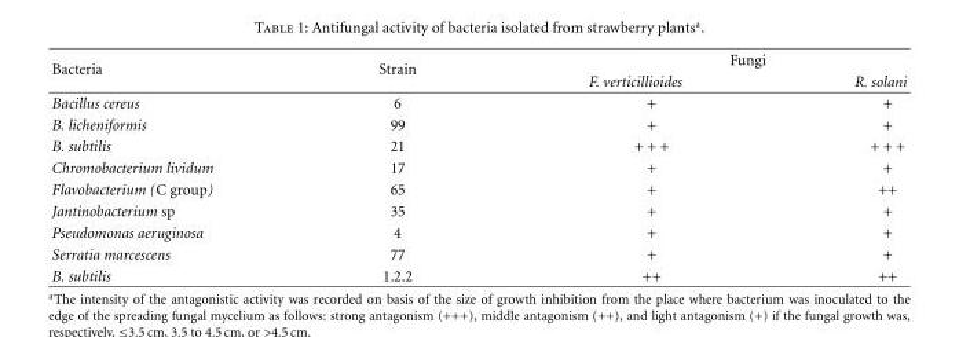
<table><thead><tr><td rowspan="2">Bacteria</td><td rowspan="2">Strain</td><td colspan="2">Fungi</td></tr><tr><td>F. verticillioides</td><td>R. solani</td></tr></thead><tbody><tr><td>Bacillus cereus</td><td>6</td><td>+</td><td>+</td></tr><tr><td>B. licheniformis</td><td>99</td><td>+</td><td>+</td></tr><tr><td>B. subtilis</td><td>21</td><td>+ + +</td><td>+ + +</td></tr><tr><td>Chromobacterium lividum</td><td>17</td><td>+</td><td>+</td></tr><tr><td>Flavobacterium (C group)</td><td>65</td><td>+</td><td>++</td></tr><tr><td>Jantinobacterium sp</td><td>35</td><td>+</td><td>+</td></tr><tr><td>Pseudomonas aeruginosa</td><td>4</td><td>+</td><td>+</td></tr><tr><td>Serratia marcescens</td><td>77</td><td>+</td><td>+</td></tr><tr><td>B. subtilis</td><td>1.2.2</td><td>++</td><td>++</td></tr></tbody></table>